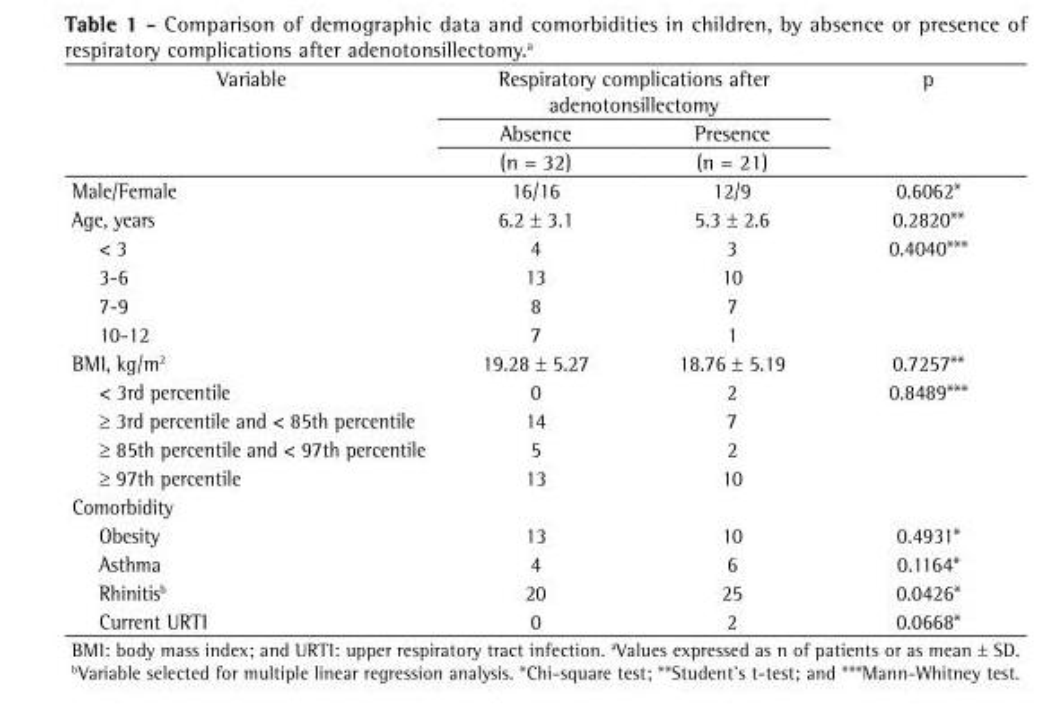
<table><thead><tr><td rowspan="3">Variable</td><td colspan="2">Respiratory complications after adenotonsillectomy</td><td rowspan="3">p</td></tr><tr><td rowspan="2">Absence (n = 32)</td><td rowspan="2">Presence (n = 21)</td></tr><tr></tr></thead><tbody><tr><td>Male/Female</td><td>16/16</td><td>12/9</td><td>0.6062*</td></tr><tr><td>Age, years</td><td>6.2 ± 3.1</td><td>5.3 ± 2.6</td><td>0.2820**</td></tr><tr><td>&lt; 3</td><td>4</td><td>3</td><td rowspan="4">0.4040***</td></tr><tr><td>3-6</td><td>13</td><td>10</td></tr><tr><td>7-9</td><td>8</td><td>7</td></tr><tr><td>10-12</td><td>7</td><td>1</td></tr><tr><td>BMI, kg/m<sup>2</sup></td><td>19.28 ± 5.27</td><td>18.76 ± 5.19</td><td>0.7257**</td></tr><tr><td>&lt; 3rd percentile</td><td>0</td><td>2</td><td rowspan="4">0.8489***</td></tr><tr><td>≥ 3rd percentile and &lt; 85th percentile</td><td>14</td><td>7</td></tr><tr><td>≥ 85th percentile and &lt; 97th percentile</td><td>5</td><td>2</td></tr><tr><td>≥ 97th percentile</td><td>13</td><td>10</td></tr><tr><td colspan="4">Comorbidity</td></tr><tr><td>Obesity</td><td>13</td><td>10</td><td>0.4931*</td></tr><tr><td>Asthma</td><td>4</td><td>6</td><td>0.1164*</td></tr><tr><td>Rhinitis<sup>b</sup></td><td>20</td><td>25</td><td>0.0426*</td></tr><tr><td>Current URTI</td><td>0</td><td>2</td><td>0.0668*</td></tr></tbody></table>